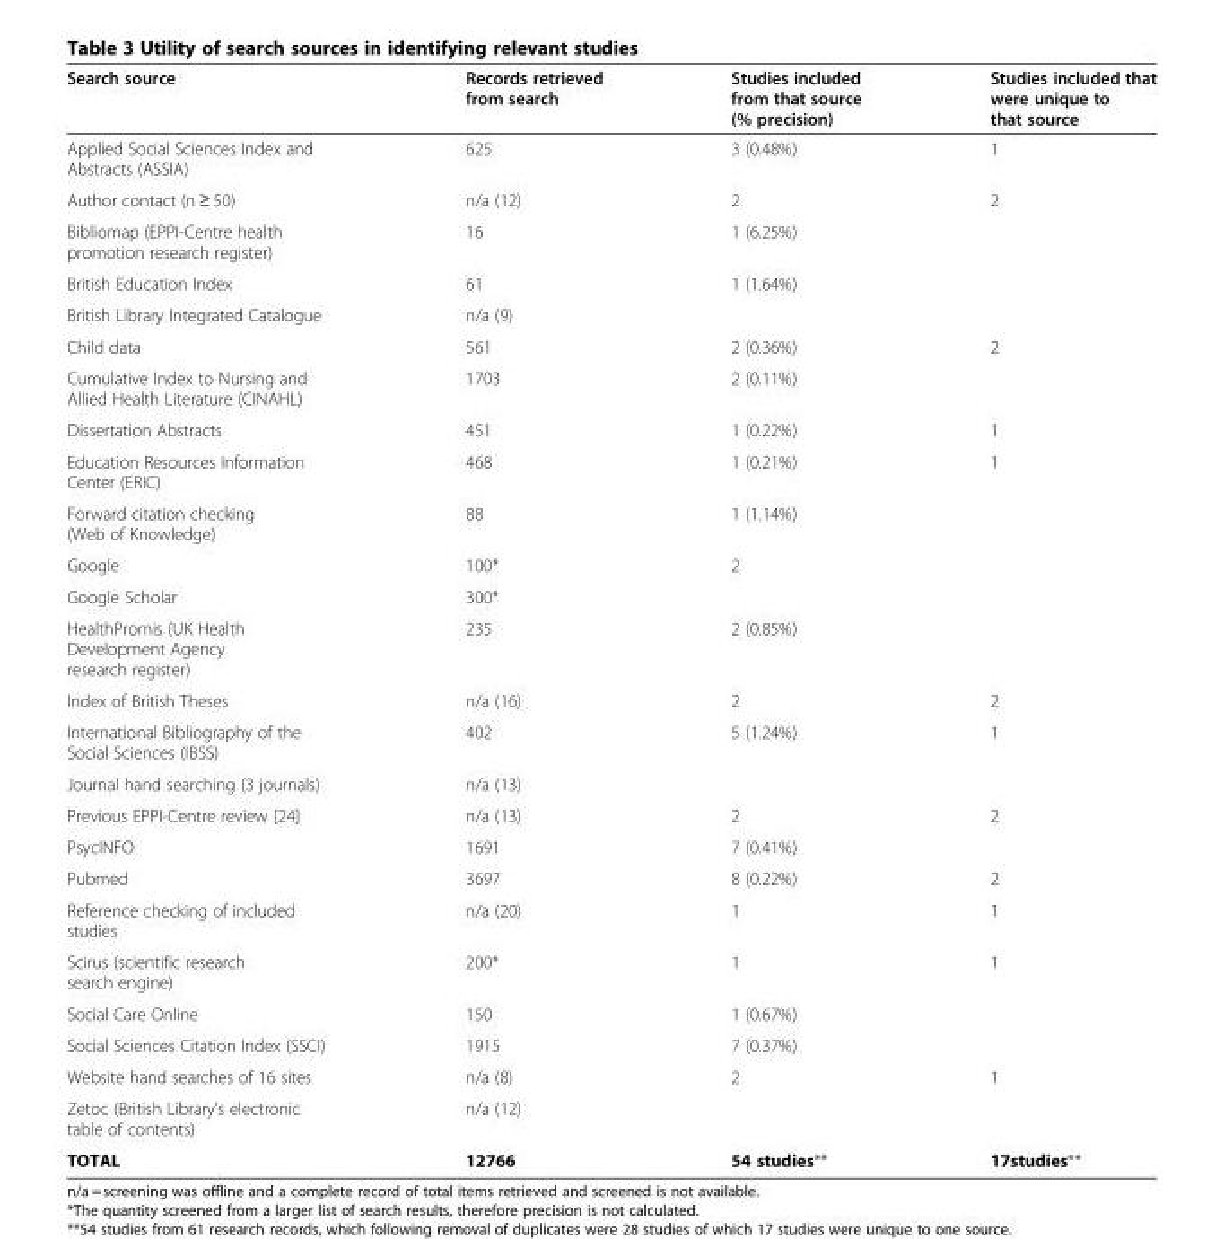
<table><thead><tr><td>Search source</td><td>Records retrieved from search</td><td>Studies included from that source (% precision)</td><td>Studies included that were unique to that source</td></tr></thead><tbody><tr><td>Applied Social Sciences Index and Abstracts (ASSIA)</td><td>625</td><td>3 (0.48%)</td><td>1</td></tr><tr><td>Author contact (n ≥ 50)</td><td>n/a (12)</td><td>2</td><td>2</td></tr><tr><td>Bibliomap (EPPI-Centre health promotion research register)</td><td>16</td><td>1 (6.25%)</td><td></td></tr><tr><td>British Education Index</td><td>61</td><td>1 (1.64%)</td><td></td></tr><tr><td>British Library Integrated Catalogue</td><td>n/a (9)</td><td></td><td></td></tr><tr><td>Child data</td><td>561</td><td>2 (0.36%)</td><td>2</td></tr><tr><td>Cumulative Index to Nursing and Allied Health Literature (CINAHL)</td><td>1703</td><td>2 (0.11%)</td><td></td></tr><tr><td>Dissertation Abstracts</td><td>451</td><td>1 (0.22%)</td><td>1</td></tr><tr><td>Education Resources Information Center (ERIC)</td><td>468</td><td>1 (0.21%)</td><td>1</td></tr><tr><td>Forward citation checking (Web of Knowledge)</td><td>88</td><td>1 (1.14%)</td><td></td></tr><tr><td>Google</td><td>100*</td><td>2</td><td></td></tr><tr><td>Google Scholar</td><td>300*</td><td></td><td></td></tr><tr><td>HealthPromis (UK Health Development Agency research register)</td><td>235</td><td>2 (0.85%)</td><td></td></tr><tr><td>Index of British Theses</td><td>n/a (16)</td><td>2</td><td>2</td></tr><tr><td>International Bibliography of the Social Sciences (IBSS)</td><td>402</td><td>5 (1.24%)</td><td>1</td></tr><tr><td>Journal hand searching (3 journals)</td><td>n/a (13)</td><td></td><td></td></tr><tr><td>Previous EPPI-Centre review [24]</td><td>n/a (13)</td><td>2</td><td>2</td></tr><tr><td>PsycINFO</td><td>1691</td><td>7 (0.41%)</td><td></td></tr><tr><td>Pubmed</td><td>3697</td><td>8 (0.22%)</td><td>2</td></tr><tr><td>Reference checking of included studies</td><td>n/a (20)</td><td>1</td><td>1</td></tr><tr><td>Scirus (scientific research search engine)</td><td>200*</td><td>1</td><td>1</td></tr><tr><td>Social Care Online</td><td>150</td><td>1 (0.67%)</td><td></td></tr><tr><td>Social Sciences Citation Index (SSCI)</td><td>1915</td><td>7 (0.37%)</td><td></td></tr><tr><td>Website hand searches of 16 sites</td><td>n/a (8)</td><td>2</td><td>1</td></tr><tr><td>Zetoc (British Library’s electronic table of contents)</td><td>n/a (12)</td><td></td><td></td></tr><tr><td>TOTAL</td><td>12766</td><td>54 studies**</td><td>17studies**</td></tr></tbody></table>